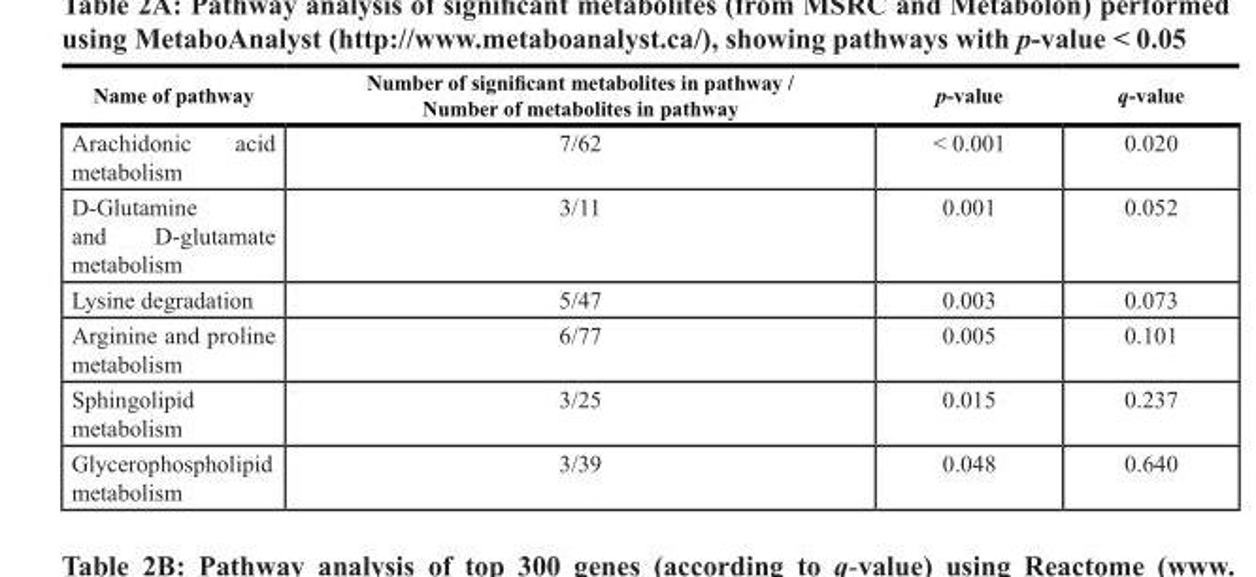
<table><thead><tr><td>Name of pathway</td><td>Number of significant metabolites in pathway / Number of metabolites in pathway</td><td>p-value</td><td>q-value</td></tr></thead><tbody><tr><td>Arachidonic acid metabolism</td><td>7/62</td><td>&lt; 0.001</td><td>0.020</td></tr><tr><td>D-Glutamine and D-glutamate metabolism</td><td>3/11</td><td>0.001</td><td>0.052</td></tr><tr><td>Lysine degradation</td><td>5/47</td><td>0.003</td><td>0.073</td></tr><tr><td>Arginine and proline metabolism</td><td>6/77</td><td>0.005</td><td>0.101</td></tr><tr><td>Sphingolipid metabolism</td><td>3/25</td><td>0.015</td><td>0.237</td></tr><tr><td>Glycerophospholipid metabolism</td><td>3/39</td><td>0.048</td><td>0.640</td></tr></tbody></table>